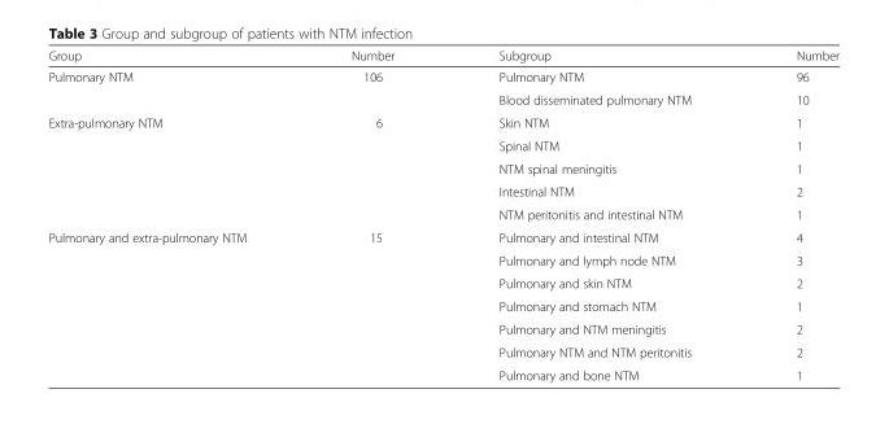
<table><thead><tr><td>Group</td><td>Number</td><td>Subgroup</td><td>Number</td></tr></thead><tbody><tr><td rowspan="2">Pulmonary NTM</td><td rowspan="2">106</td><td>Pulmonary NTM</td><td>96</td></tr><tr><td>Blood disseminated pulmonary NTM</td><td>10</td></tr><tr><td rowspan="5">Extra-pulmonary NTM</td><td rowspan="5">6</td><td>Skin NTM</td><td>1</td></tr><tr><td>Spinal NTM</td><td>1</td></tr><tr><td>NTM spinal meningitis</td><td>1</td></tr><tr><td>Intestinal NTM</td><td>2</td></tr><tr><td>NTM peritonitis and intestinal NTM</td><td>1</td></tr><tr><td rowspan="7">Pulmonary and extra-pulmonary NTM</td><td rowspan="7">15</td><td>Pulmonary and intestinal NTM</td><td>4</td></tr><tr><td>Pulmonary and lymph node NTM</td><td>3</td></tr><tr><td>Pulmonary and skin NTM</td><td>2</td></tr><tr><td>Pulmonary and stomach NTM</td><td>1</td></tr><tr><td>Pulmonary and NTM meningitis</td><td>2</td></tr><tr><td>Pulmonary NTM and NTM peritonitis</td><td>2</td></tr><tr><td>Pulmonary and bone NTM</td><td>1</td></tr></tbody></table>